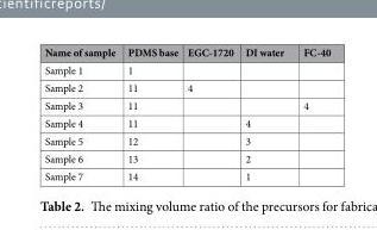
<table><thead><tr><td>Name of sample</td><td>PDMS base</td><td>EGC-1720</td><td>DI water</td><td>FC-40</td></tr></thead><tbody><tr><td>Sample 1</td><td>1</td><td></td><td></td><td></td></tr><tr><td>Sample 2</td><td>11</td><td>4</td><td></td><td></td></tr><tr><td>Sample 3</td><td>11</td><td></td><td></td><td>4</td></tr><tr><td>Sample 4</td><td>11</td><td></td><td>4</td><td></td></tr><tr><td>Sample 5</td><td>12</td><td></td><td>3</td><td></td></tr><tr><td>Sample 6</td><td>13</td><td></td><td>2</td><td></td></tr><tr><td>Sample 7</td><td>14</td><td></td><td>1</td><td></td></tr></tbody></table>